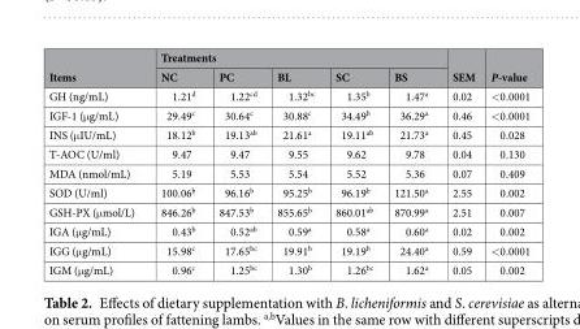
<table><thead><tr><td rowspan="2">Items</td><td colspan="5">Treatments</td><td rowspan="2">SEM</td><td rowspan="2">P-value</td></tr><tr><td>NC</td><td>PC</td><td>BL</td><td>SC</td><td>BS</td></tr></thead><tbody><tr><td>GH (ng/mL)</td><td>1.21<sup>d</sup></td><td>1.22<sup>cd</sup></td><td>1.32<sup>bc</sup></td><td>1.35<sup>b</sup></td><td>1.47<sup>a</sup></td><td>0.02</td><td>&lt;0.0001</td></tr><tr><td>IGF-1 (μg/mL)</td><td>29.49<sup>c</sup></td><td>30.64<sup>c</sup></td><td>30.88<sup>c</sup></td><td>34.49<sup>b</sup></td><td>36.29<sup>a</sup></td><td>0.46</td><td>&lt;0.0001</td></tr><tr><td>INS (μIU/mL)</td><td>18.12<sup>b</sup></td><td>19.13<sup>ab</sup></td><td>21.61<sup>a</sup></td><td>19.11<sup>ab</sup></td><td>21.73<sup>a</sup></td><td>0.45</td><td>0.028</td></tr><tr><td>T-AOC (U/ml)</td><td>9.47</td><td>9.47</td><td>9.55</td><td>9.62</td><td>9.78</td><td>0.04</td><td>0.130</td></tr><tr><td>MDA (nmol/mL)</td><td>5.19</td><td>5.53</td><td>5.54</td><td>5.52</td><td>5.36</td><td>0.07</td><td>0.409</td></tr><tr><td>SOD (U/ml)</td><td>100.06<sup>b</sup></td><td>96.16<sup>b</sup></td><td>95.25<sup>b</sup></td><td>96.19<sup>b</sup></td><td>121.50<sup>a</sup></td><td>2.55</td><td>0.002</td></tr><tr><td>GSH-PX (μmol/L)</td><td>846.26<sup>b</sup></td><td>847.53<sup>b</sup></td><td>855.65<sup>b</sup></td><td>860.01<sup>ab</sup></td><td>870.99<sup>a</sup></td><td>2.51</td><td>0.007</td></tr><tr><td>IGA (μg/mL)</td><td>0.43<sup>b</sup></td><td>0.52<sup>ab</sup></td><td>0.59<sup>a</sup></td><td>0.58<sup>a</sup></td><td>0.60<sup>a</sup></td><td>0.02</td><td>0.002</td></tr><tr><td>IGG (μg/mL)</td><td>15.98<sup>c</sup></td><td>17.65<sup>bc</sup></td><td>19.91<sup>b</sup></td><td>19.19<sup>b</sup></td><td>24.40<sup>a</sup></td><td>0.59</td><td>&lt;0.0001</td></tr><tr><td>IGM (μg/mL)</td><td>0.96<sup>c</sup></td><td>1.25<sup>bc</sup></td><td>1.30<sup>b</sup></td><td>1.26<sup>bc</sup></td><td>1.62<sup>a</sup></td><td>0.05</td><td>0.002</td></tr></tbody></table>